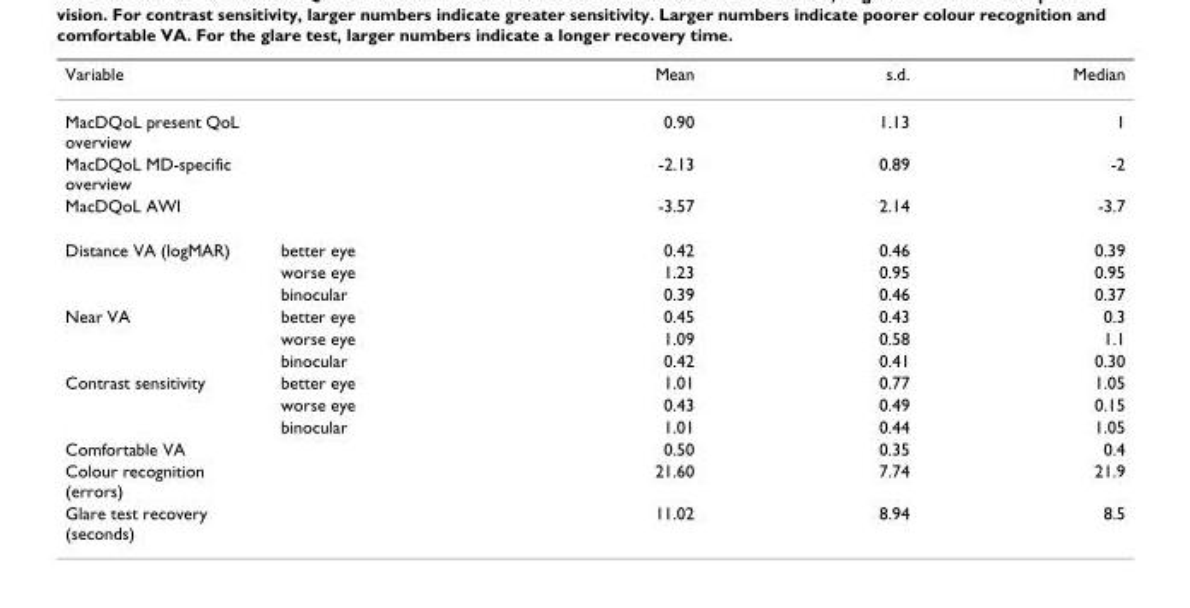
<table><thead><tr><td>Variable</td><td></td><td>Mean</td><td>s.d.</td><td>Median</td></tr></thead><tbody><tr><td>MacDQoL present QoL overview</td><td></td><td>0.90</td><td>1.13</td><td>1</td></tr><tr><td>MacDQoL MD-specific overview</td><td></td><td>-2.13</td><td>0.89</td><td>-2</td></tr><tr><td>MacDQoL AWI</td><td></td><td>-3.57</td><td>2.14</td><td>-3.7</td></tr><tr><td rowspan="3">Distance VA (logMAR)</td><td>better eye</td><td>0.42</td><td>0.46</td><td>0.39</td></tr><tr><td>worse eye</td><td>1.23</td><td>0.95</td><td>0.95</td></tr><tr><td>binocular</td><td>0.39</td><td>0.46</td><td>0.37</td></tr><tr><td rowspan="3">Near VA</td><td>better eye</td><td>0.45</td><td>0.43</td><td>0.3</td></tr><tr><td>worse eye</td><td>1.09</td><td>0.58</td><td>1.1</td></tr><tr><td>binocular</td><td>0.42</td><td>0.41</td><td>0.30</td></tr><tr><td rowspan="3">Contrast sensitivity</td><td>better eye</td><td>1.01</td><td>0.77</td><td>1.05</td></tr><tr><td>worse eye</td><td>0.43</td><td>0.49</td><td>0.15</td></tr><tr><td>binocular</td><td>1.01</td><td>0.44</td><td>1.05</td></tr><tr><td>Comfortable VA</td><td></td><td>0.50</td><td>0.35</td><td>0.4</td></tr><tr><td>Colour recognition (errors)</td><td></td><td>21.60</td><td>7.74</td><td>21.9</td></tr><tr><td>Glare test recovery (seconds)</td><td></td><td>11.02</td><td>8.94</td><td>8.5</td></tr></tbody></table>